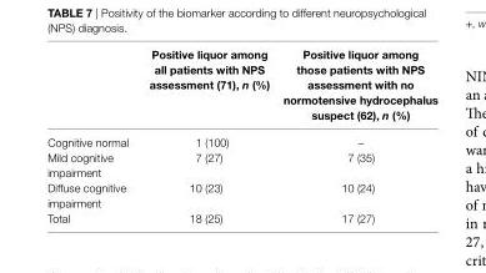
<table><thead><tr><td></td><td>Positive liquor among all patients with nPs assessment (71), n (%)</td><td>Positive liquor among those patients with nPs assessment with no normotensive hydrocephalus suspect (62), n (%)</td></tr></thead><tbody><tr><td>Cognitive normal</td><td>1 (100)</td><td>–</td></tr><tr><td>Mild cognitive impairment</td><td>7 (27)</td><td>7 (35)</td></tr><tr><td>Diffuse cognitive impairment</td><td>10 (23)</td><td>10 (24)</td></tr><tr><td>Total</td><td>18 (25)</td><td>17 (27)</td></tr></tbody></table>